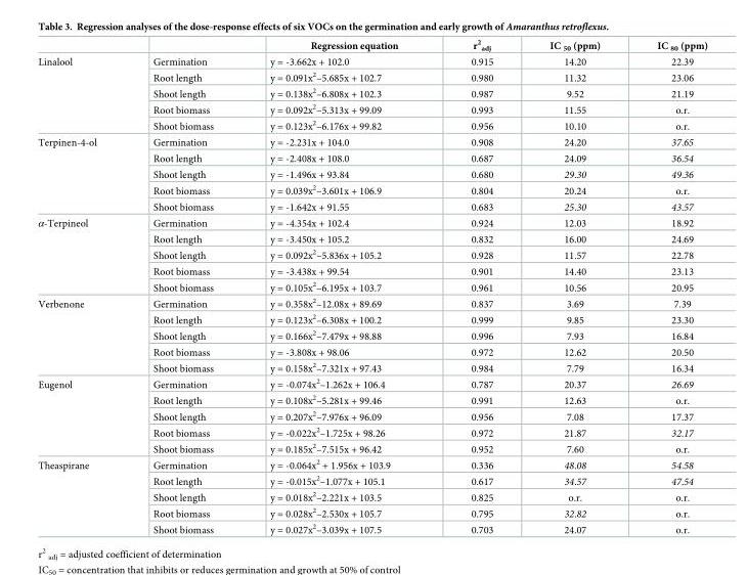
<table><thead><tr><td></td><td></td><td>Regression equation</td><td>r<sup>2</sup> <sub>adj</sub></td><td>IC <sub>50</sub> (ppm)</td><td>IC <sub>80</sub> (ppm)</td></tr></thead><tbody><tr><td rowspan="5">Linalool</td><td>Germination</td><td>y = -3.662x + 102.0</td><td>0.915</td><td>14.20</td><td>22.39</td></tr><tr><td>Root length</td><td>y = 0.091x<sup>2</sup>–5.685x + 102.7</td><td>0.980</td><td>11.32</td><td>23.06</td></tr><tr><td>Shoot length</td><td>y = 0.138x<sup>2</sup>–6.808x + 102.3</td><td>0.987</td><td>9.52</td><td>21.19</td></tr><tr><td>Root biomass</td><td>y = 0.092x<sup>2</sup>–5.313x + 99.09</td><td>0.993</td><td>11.55</td><td>o.r.</td></tr><tr><td>Shoot biomass</td><td>y = 0.123x<sup>2</sup>–6.176x + 99.82</td><td>0.956</td><td>10.10</td><td>o.r.</td></tr><tr><td rowspan="5">Terpinen-4-ol</td><td>Germination</td><td>y = -2.231x + 104.0</td><td>0.908</td><td>24.20</td><td>37.65</td></tr><tr><td>Root length</td><td>y = -2.408x + 108.0</td><td>0.687</td><td>24.09</td><td>36.54</td></tr><tr><td>Shoot length</td><td>y = -1.496x + 93.84</td><td>0.680</td><td>29.30</td><td>49.36</td></tr><tr><td>Root biomass</td><td>y = 0.039x<sup>2</sup>–3.601x + 106.9</td><td>0.804</td><td>20.24</td><td>o.r.</td></tr><tr><td>Shoot biomass</td><td>y = -1.642x + 91.55</td><td>0.683</td><td>25.30</td><td>43.57</td></tr><tr><td rowspan="5">α-Terpineol</td><td>Germination</td><td>y = -4.354x + 102.4</td><td>0.924</td><td>12.03</td><td>18.92</td></tr><tr><td>Root length</td><td>y = -3.450x + 105.2</td><td>0.832</td><td>16.00</td><td>24.69</td></tr><tr><td>Shoot length</td><td>y = 0.092x<sup>2</sup>–5.836x + 105.2</td><td>0.928</td><td>11.57</td><td>22.78</td></tr><tr><td>Root biomass</td><td>y = -3.438x + 99.54</td><td>0.901</td><td>14.40</td><td>23.13</td></tr><tr><td>Shoot biomass</td><td>y = 0.105x<sup>2</sup>–6.195x + 103.7</td><td>0.961</td><td>10.56</td><td>20.95</td></tr><tr><td rowspan="5">Verbenone</td><td>Germination</td><td>y = 0.358x<sup>2</sup>–12.08x + 89.69</td><td>0.837</td><td>3.69</td><td>7.39</td></tr><tr><td>Root length</td><td>y = 0.123x<sup>2</sup>–6.308x + 100.2</td><td>0.999</td><td>9.85</td><td>23.30</td></tr><tr><td>Shoot length</td><td>y = 0.166x<sup>2</sup>–7.479x + 98.88</td><td>0.996</td><td>7.93</td><td>16.84</td></tr><tr><td>Root biomass</td><td>y = -3.808x + 98.06</td><td>0.972</td><td>12.62</td><td>20.50</td></tr><tr><td>Shoot biomass</td><td>y = 0.158x<sup>2</sup>–7.321x + 97.43</td><td>0.984</td><td>7.79</td><td>16.34</td></tr><tr><td rowspan="5">Eugenol</td><td>Germination</td><td>y = -0.074x<sup>2</sup>–1.262x + 106.4</td><td>0.787</td><td>20.37</td><td>26.69</td></tr><tr><td>Root length</td><td>y = 0.108x<sup>2</sup>–5.281x + 99.46</td><td>0.991</td><td>12.63</td><td>o.r.</td></tr><tr><td>Shoot length</td><td>y = 0.207x<sup>2</sup>–7.976x + 96.09</td><td>0.956</td><td>7.08</td><td>17.37</td></tr><tr><td>Root biomass</td><td>y = -0.022x<sup>2</sup>–1.725x + 98.26</td><td>0.972</td><td>21.87</td><td>32.17</td></tr><tr><td>Shoot biomass</td><td>y = 0.185x<sup>2</sup>–7.515x + 96.42</td><td>0.952</td><td>7.60</td><td>o.r.</td></tr><tr><td rowspan="5">Theaspirane</td><td>Germination</td><td>y = -0.064x<sup>2</sup> + 1.956x + 103.9</td><td>0.336</td><td>48.08</td><td>54.58</td></tr><tr><td>Root length</td><td>y = -0.015x<sup>2</sup>–1.077x + 105.1</td><td>0.617</td><td>34.57</td><td>47.54</td></tr><tr><td>Shoot length</td><td>y = 0.018x<sup>2</sup>–2.221x + 103.5</td><td>0.825</td><td>o.r.</td><td>o.r.</td></tr><tr><td>Root biomass</td><td>y = 0.028x<sup>2</sup>–2.530x + 105.7</td><td>0.795</td><td>32.82</td><td>o.r.</td></tr><tr><td>Shoot biomass</td><td>y = 0.027x<sup>2</sup>–3.039x + 107.5</td><td>0.703</td><td>24.07</td><td>o.r.</td></tr></tbody></table>